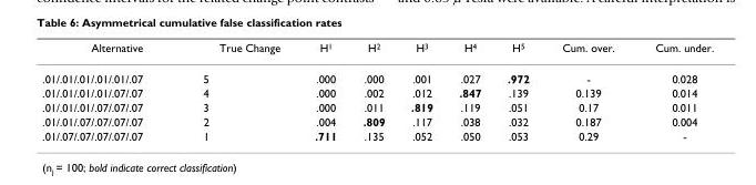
<table><thead><tr><td>Alternative</td><td>True Change</td><td>H<sup>1</sup></td><td>H<sup>2</sup></td><td>H<sup>3</sup></td><td>H<sup>4</sup></td><td>H<sup>5</sup></td><td>Cum. over.</td><td>Cum. under.</td></tr></thead><tbody><tr><td>.01/.01/.01/.01/.01/.07</td><td>5</td><td>.000</td><td>.000</td><td>.001</td><td>.027</td><td>.972</td><td>-</td><td>0.028</td></tr><tr><td>.01/.01/.01/.01/.07/.07</td><td>4</td><td>.000</td><td>.002</td><td>.012</td><td>.847</td><td>.139</td><td>0.139</td><td>0.014</td></tr><tr><td>.01/.01/.01/.07/.07/.07</td><td>3</td><td>.000</td><td>.011</td><td>.819</td><td>.119</td><td>.051</td><td>0.17</td><td>0.011</td></tr><tr><td>.01/.01/.07/.07/.07/.07</td><td>2</td><td>.004</td><td>.809</td><td>.117</td><td>.038</td><td>.032</td><td>0.187</td><td>0.004</td></tr><tr><td>.01/.07/.07/.07/.07/.07</td><td>1</td><td>.711</td><td>.135</td><td>.052</td><td>.050</td><td>.053</td><td>0.29</td><td>-</td></tr></tbody></table>